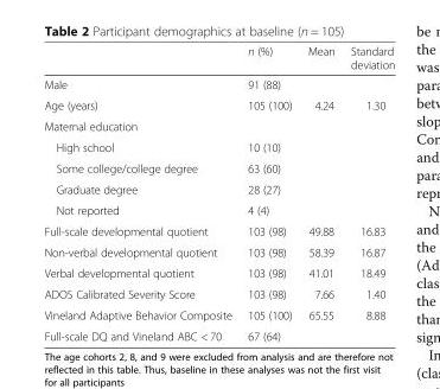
<table><thead><tr><td></td><td>n (%)</td><td>Mean</td><td>Standard deviation</td></tr></thead><tbody><tr><td>Male</td><td>91 (88)</td><td></td><td></td></tr><tr><td>Age (years)</td><td>105 (100)</td><td>4.24</td><td>1.30</td></tr><tr><td colspan="4">Maternal education</td></tr><tr><td>High school</td><td>10 (10)</td><td></td><td></td></tr><tr><td>Some college/college degree</td><td>63 (60)</td><td></td><td></td></tr><tr><td>Graduate degree</td><td>28 (27)</td><td></td><td></td></tr><tr><td>Not reported</td><td>4 (4)</td><td></td><td></td></tr><tr><td>Full-scale developmental quotient</td><td>103 (98)</td><td>49.88</td><td>16.83</td></tr><tr><td>Non-verbal developmental quotient</td><td>103 (98)</td><td>58.39</td><td>16.87</td></tr><tr><td>Verbal developmental quotient</td><td>103 (98)</td><td>41.01</td><td>18.49</td></tr><tr><td>ADOS Calibrated Severity Score</td><td>103 (98)</td><td>7.66</td><td>1.40</td></tr><tr><td>Vineland Adaptive Behavior Composite</td><td>105 (100)</td><td>65.55</td><td>8.88</td></tr><tr><td>Full-scale DQ and Vineland ABC &lt; 70</td><td>67 (64)</td><td></td><td></td></tr></tbody></table>